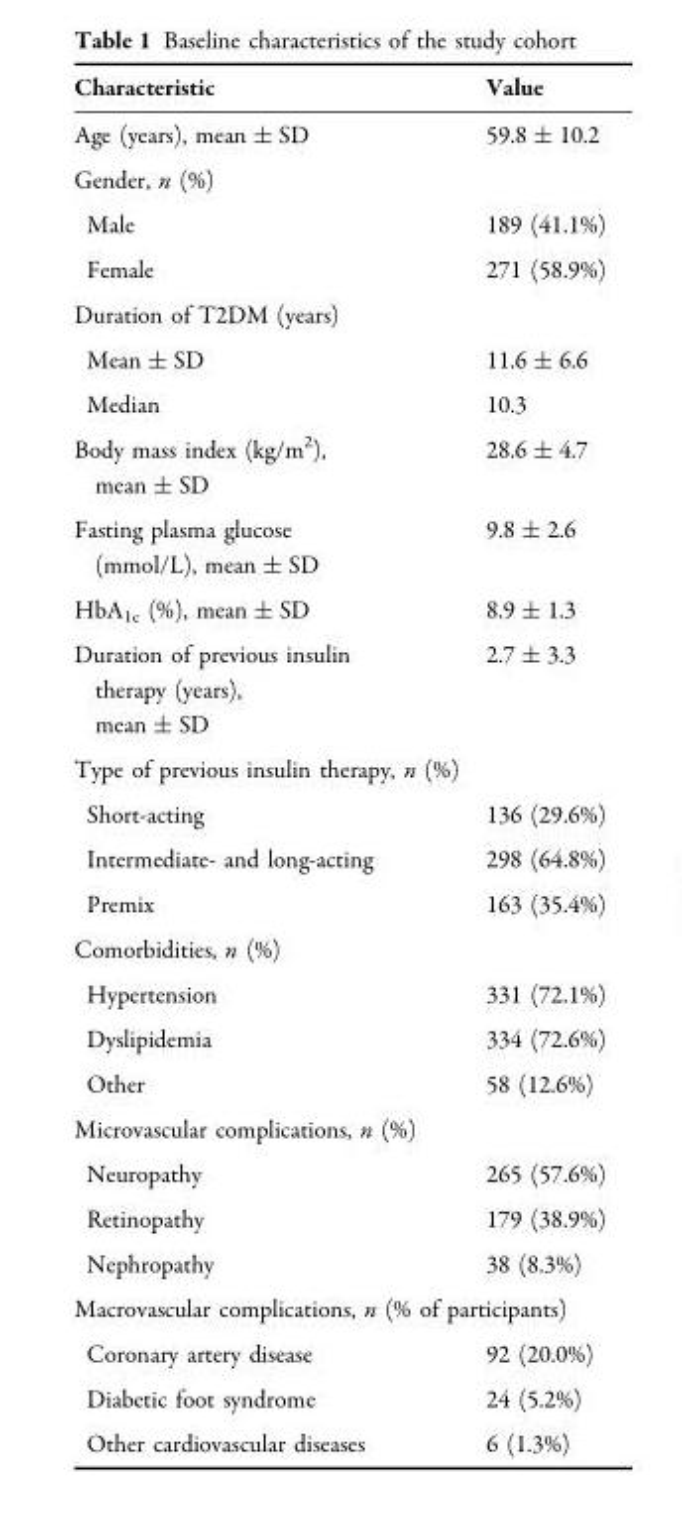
<table><thead><tr><td>Characteristic</td><td>Value</td></tr></thead><tbody><tr><td>Age (years), mean ± SD</td><td>59.8 ± 10.2</td></tr><tr><td colspan="2">Gender, n (%)</td></tr><tr><td>Male</td><td>189 (41.1%)</td></tr><tr><td>Female</td><td>271 (58.9%)</td></tr><tr><td colspan="2">Duration of T2DM (years)</td></tr><tr><td>Mean ± SD</td><td>11.6 ± 6.6</td></tr><tr><td>Median</td><td>10.3</td></tr><tr><td>Body mass index (kg/m<sup>2</sup>), mean ± SD</td><td>28.6 ± 4.7</td></tr><tr><td>Fasting plasma glucose (mmol/L), mean ± SD</td><td>9.8 ± 2.6</td></tr><tr><td>HbA<sub>1c</sub> (%), mean ± SD</td><td>8.9 ± 1.3</td></tr><tr><td>Duration of previous insulin therapy (years), mean ± SD</td><td>2.7 ± 3.3</td></tr><tr><td colspan="2">Type of previous insulin therapy, n (%)</td></tr><tr><td>Short-acting</td><td>136 (29.6%)</td></tr><tr><td>Intermediate- and long-acting</td><td>298 (64.8%)</td></tr><tr><td>Premix</td><td>163 (35.4%)</td></tr><tr><td colspan="2">Comorbidities, n (%)</td></tr><tr><td>Hypertension</td><td>331 (72.1%)</td></tr><tr><td>Dyslipidemia</td><td>334 (72.6%)</td></tr><tr><td>Other</td><td>58 (12.6%)</td></tr><tr><td colspan="2">Microvascular complications, n (%)</td></tr><tr><td>Neuropathy</td><td>265 (57.6%)</td></tr><tr><td>Retinopathy</td><td>179 (38.9%)</td></tr><tr><td>Nephropathy</td><td>38 (8.3%)</td></tr><tr><td colspan="2">Macrovascular complications, n (% of participants)</td></tr><tr><td>Coronary artery disease</td><td>92 (20.0%)</td></tr><tr><td>Diabetic foot syndrome</td><td>24 (5.2%)</td></tr><tr><td>Other cardiovascular diseases</td><td>6 (1.3%)</td></tr></tbody></table>